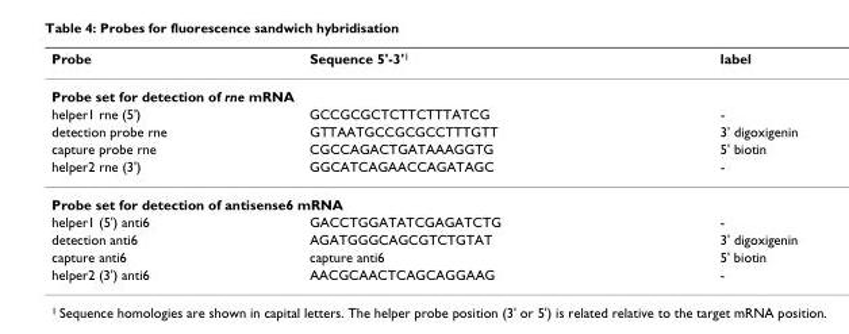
<table><thead><tr><td>Probe</td><td>Sequence 5&#x27;-3&#x27;<sup>1</sup></td><td>label</td></tr></thead><tbody><tr><td colspan="3">Probe set for detection of rne mRNA</td></tr><tr><td>helper1 rne (5&#x27;)</td><td>GCCGCGCTCTTCTTTATCG</td><td>-</td></tr><tr><td>detection probe rne</td><td>GTTAATGCCGCGCCTTTGTT</td><td>3&#x27; digoxigenin</td></tr><tr><td>capture probe rne</td><td>CGCCAGACTGATAAAGGTG</td><td>5&#x27; biotin</td></tr><tr><td>helper2 rne (3&#x27;)</td><td>GGCATCAGAACCAGATAGC</td><td>-</td></tr><tr><td colspan="3">Probe set for detection of antisense6 mRNA</td></tr><tr><td>helper1 (5&#x27;) anti6</td><td>GACCTGGATATCGAGATCTG</td><td>-</td></tr><tr><td>detection anti6</td><td>AGATGGGCAGCGTCTGTAT</td><td>3&#x27; digoxigenin</td></tr><tr><td>capture anti6</td><td>capture anti6</td><td>5&#x27; biotin</td></tr><tr><td>helper2 (3&#x27;) anti6</td><td>AACGCAACTCAGCAGGAAG</td><td>-</td></tr></tbody></table>